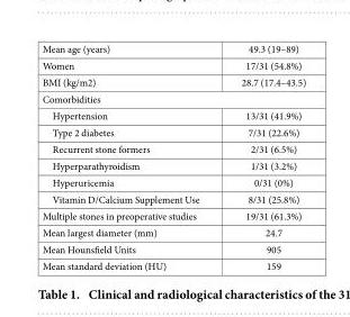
<table><tbody><tr><td>Mean age (years)</td><td>49.3 (19–89)</td></tr><tr><td>Women</td><td>17/31 (54.8%)</td></tr><tr><td>BMI (kg/m2)</td><td>28.7 (17.4–43.5)</td></tr><tr><td colspan="2">Comorbidities</td></tr><tr><td>Hypertension</td><td>13/31 (41.9%)</td></tr><tr><td>Type 2 diabetes</td><td>7/31 (22.6%)</td></tr><tr><td>Recurrent stone formers</td><td>2/31 (6.5%)</td></tr><tr><td>Hyperparathyroidism</td><td>1/31 (3.2%)</td></tr><tr><td>Hyperuricemia</td><td>0/31 (0%)</td></tr><tr><td>Vitamin D/Calcium Supplement Use</td><td>8/31 (25.8%)</td></tr><tr><td>Multiple stones in preoperative studies</td><td>19/31 (61.3%)</td></tr><tr><td>Mean largest diameter (mm)</td><td>24.7</td></tr><tr><td>Mean Hounsfield Units</td><td>905</td></tr><tr><td>Mean standard deviation (HU)</td><td>159</td></tr></tbody></table>